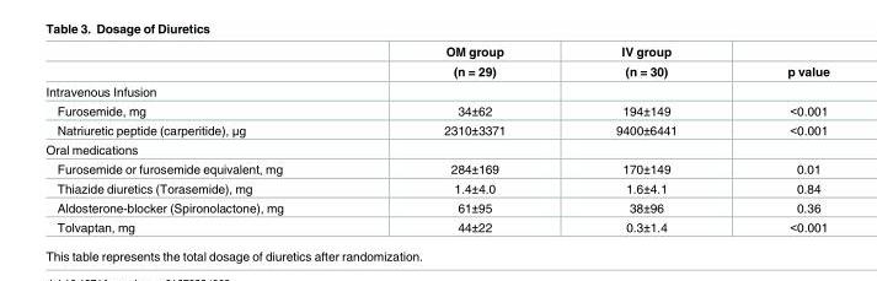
<table><thead><tr><td rowspan="2"></td><td rowspan="2">OM group (n = 29)</td><td rowspan="2">IV group (n = 30)</td><td rowspan="2">p value</td></tr><tr></tr></thead><tbody><tr><td colspan="4">Intravenous Infusion</td></tr><tr><td>Furosemide, mg</td><td>34±62</td><td>194±149</td><td>&lt;0.001</td></tr><tr><td>Natriuretic peptide (carperitide), μg</td><td>2310±3371</td><td>9400±6441</td><td>&lt;0.001</td></tr><tr><td colspan="4">Oral medications</td></tr><tr><td>Furosemide or furosemide equivalent, mg</td><td>284±169</td><td>170±149</td><td>0.01</td></tr><tr><td>Thiazide diuretics (Torasemide), mg</td><td>1.4±4.0</td><td>1.6±4.1</td><td>0.84</td></tr><tr><td>Aldosterone-blocker (Spironolactone), mg</td><td>61±95</td><td>38±96</td><td>0.36</td></tr><tr><td>Tolvaptan, mg</td><td>44±22</td><td>0.3±1.4</td><td>&lt;0.001</td></tr></tbody></table>